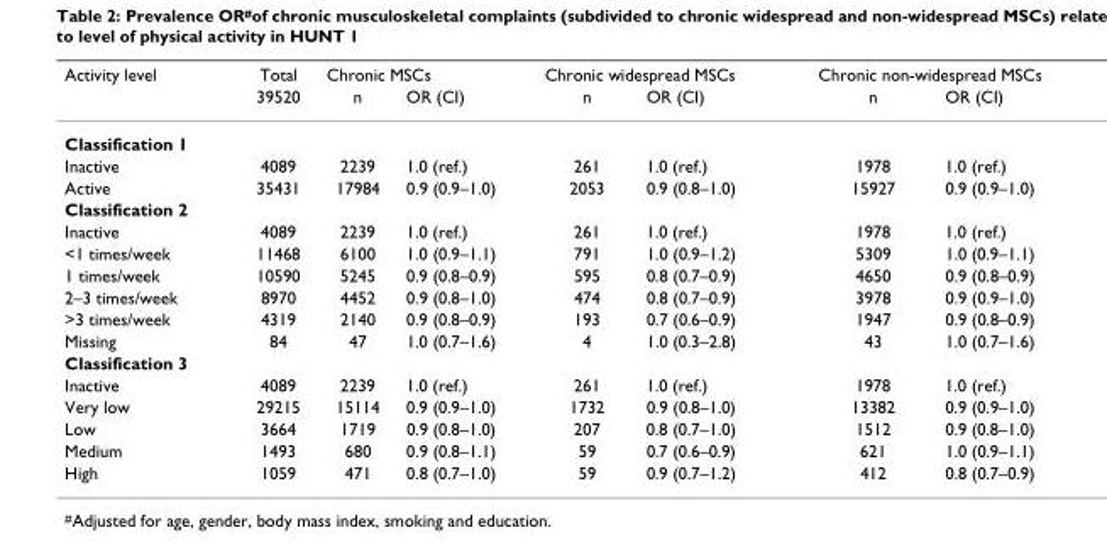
<table><thead><tr><td rowspan="2">Activity level</td><td rowspan="2">Total 39520</td><td colspan="2">Chronic MSCs</td><td colspan="2">Chronic widespread MSCs</td><td colspan="2">Chronic non-widespread MSCs</td></tr><tr><td>n</td><td>OR (CI)</td><td>n</td><td>OR (CI)</td><td>n</td><td>OR (CI)</td></tr></thead><tbody><tr><td colspan="8">Classification 1</td></tr><tr><td>Inactive</td><td>4089</td><td>2239</td><td>1.0 (ref.)</td><td>261</td><td>1.0 (ref.)</td><td>1978</td><td>1.0 (ref.)</td></tr><tr><td>Active</td><td>35431</td><td>17984</td><td>0.9 (0.9–1.0)</td><td>2053</td><td>0.9 (0.8–1.0)</td><td>15927</td><td>0.9 (0.9–1.0)</td></tr><tr><td colspan="8">Classification 2</td></tr><tr><td>Inactive</td><td>4089</td><td>2239</td><td>1.0 (ref.)</td><td>261</td><td>1.0 (ref.)</td><td>1978</td><td>1.0 (ref.)</td></tr><tr><td>&lt;1 times/week</td><td>11468</td><td>6100</td><td>1.0 (0.9–1.1)</td><td>791</td><td>1.0 (0.9–1.2)</td><td>5309</td><td>1.0 (0.9–1.1)</td></tr><tr><td>1 times/week</td><td>10590</td><td>5245</td><td>0.9 (0.8–0.9)</td><td>595</td><td>0.8 (0.7–0.9)</td><td>4650</td><td>0.9 (0.8–0.9)</td></tr><tr><td>2–3 times/week</td><td>8970</td><td>4452</td><td>0.9 (0.8–1.0)</td><td>474</td><td>0.8 (0.7–0.9)</td><td>3978</td><td>0.9 (0.9–1.0)</td></tr><tr><td>&gt;3 times/week</td><td>4319</td><td>2140</td><td>0.9 (0.8–0.9)</td><td>193</td><td>0.7 (0.6–0.9)</td><td>1947</td><td>0.9 (0.8–0.9)</td></tr><tr><td>Missing</td><td>84</td><td>47</td><td>1.0 (0.7–1.6)</td><td>4</td><td>1.0 (0.3–2.8)</td><td>43</td><td>1.0 (0.7–1.6)</td></tr><tr><td colspan="8">Classification 3</td></tr><tr><td>Inactive</td><td>4089</td><td>2239</td><td>1.0 (ref.)</td><td>261</td><td>1.0 (ref.)</td><td>1978</td><td>1.0 (ref.)</td></tr><tr><td>Very low</td><td>29215</td><td>15114</td><td>0.9 (0.9–1.0)</td><td>1732</td><td>0.9 (0.8–1.0)</td><td>13382</td><td>0.9 (0.9–1.0)</td></tr><tr><td>Low</td><td>3664</td><td>1719</td><td>0.9 (0.8–1.0)</td><td>207</td><td>0.8 (0.7–1.0)</td><td>1512</td><td>0.9 (0.8–1.0)</td></tr><tr><td>Medium</td><td>1493</td><td>680</td><td>0.9 (0.8–1.1)</td><td>59</td><td>0.7 (0.6–0.9)</td><td>621</td><td>1.0 (0.9–1.1)</td></tr><tr><td>High</td><td>1059</td><td>471</td><td>0.8 (0.7–1.0)</td><td>59</td><td>0.9 (0.7–1.2)</td><td>412</td><td>0.8 (0.7–0.9)</td></tr></tbody></table>